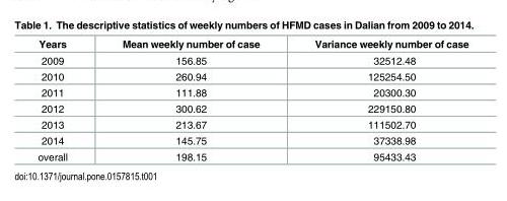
<table><thead><tr><td>Years</td><td>Mean weekly number of case</td><td>Variance weekly number of case</td></tr></thead><tbody><tr><td>2009</td><td>156.85</td><td>32512.48</td></tr><tr><td>2010</td><td>260.94</td><td>125254.50</td></tr><tr><td>2011</td><td>111.88</td><td>20300.30</td></tr><tr><td>2012</td><td>300.62</td><td>229150.80</td></tr><tr><td>2013</td><td>213.67</td><td>111502.70</td></tr><tr><td>2014</td><td>145.75</td><td>37338.98</td></tr><tr><td>overall</td><td>198.15</td><td>95433.43</td></tr></tbody></table>